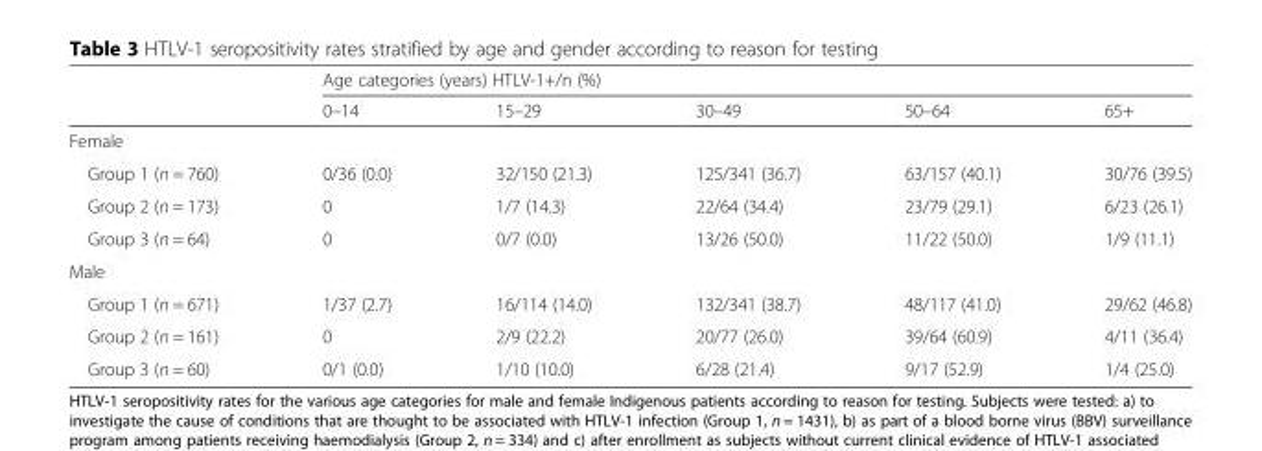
<table><thead><tr><td rowspan="2"></td><td colspan="5">Age categories (years) HTLV-1+/n (%)</td></tr><tr><td>0–14</td><td>15–29</td><td>30–49</td><td>50–64</td><td>65+</td></tr></thead><tbody><tr><td colspan="6">Female</td></tr><tr><td>Group 1 (n = 760)</td><td>0/36 (0.0)</td><td>32/150 (21.3)</td><td>125/341 (36.7)</td><td>63/157 (40.1)</td><td>30/76 (39.5)</td></tr><tr><td>Group 2 (n = 173)</td><td>0</td><td>1/7 (14.3)</td><td>22/64 (34.4)</td><td>23/79 (29.1)</td><td>6/23 (26.1)</td></tr><tr><td>Group 3 (n = 64)</td><td>0</td><td>0/7 (0.0)</td><td>13/26 (50.0)</td><td>11/22 (50.0)</td><td>1/9 (11.1)</td></tr><tr><td colspan="6">Male</td></tr><tr><td>Group 1 (n = 671)</td><td>1/37 (2.7)</td><td>16/114 (14.0)</td><td>132/341 (38.7)</td><td>48/117 (41.0)</td><td>29/62 (46.8)</td></tr><tr><td>Group 2 (n = 161)</td><td>0</td><td>2/9 (22.2)</td><td>20/77 (26.0)</td><td>39/64 (60.9)</td><td>4/11 (36.4)</td></tr><tr><td>Group 3 (n = 60)</td><td>0/1 (0.0)</td><td>1/10 (10.0)</td><td>6/28 (21.4)</td><td>9/17 (52.9)</td><td>1/4 (25.0)</td></tr></tbody></table>